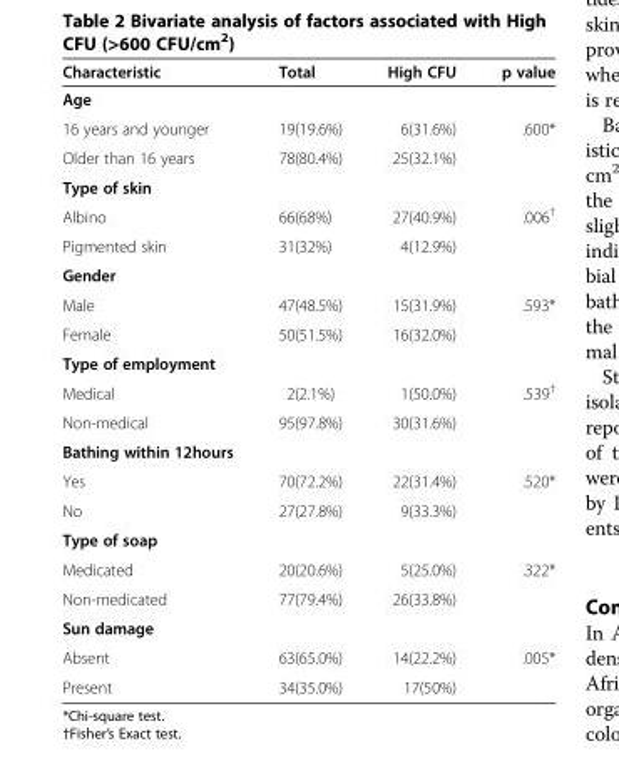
<table><thead><tr><td>Characteristic</td><td>Total</td><td>High CFU</td><td>p value</td></tr></thead><tbody><tr><td colspan="4">Age</td></tr><tr><td>16 years and younger</td><td>19(19.6%)</td><td>6(31.6%)</td><td>.600*</td></tr><tr><td>Older than 16 years</td><td>78(80.4%)</td><td>25(32.1%)</td><td></td></tr><tr><td colspan="4">Type of skin</td></tr><tr><td>Albino</td><td>66(68%)</td><td>27(40.9%)</td><td>.006<sup>†</sup></td></tr><tr><td>Pigmented skin</td><td>31(32%)</td><td>4(12.9%)</td><td></td></tr><tr><td colspan="4">Gender</td></tr><tr><td>Male</td><td>47(48.5%)</td><td>15(31.9%)</td><td>.593*</td></tr><tr><td>Female</td><td>50(51.5%)</td><td>16(32.0%)</td><td></td></tr><tr><td colspan="4">Type of employment</td></tr><tr><td>Medical</td><td>2(2.1%)</td><td>1(50.0%)</td><td>.539<sup>†</sup></td></tr><tr><td>Non-medical</td><td>95(97.8%)</td><td>30(31.6%)</td><td></td></tr><tr><td colspan="4">Bathing within 12hours</td></tr><tr><td>Yes</td><td>70(72.2%)</td><td>22(31.4%)</td><td>.520*</td></tr><tr><td>No</td><td>27(27.8%)</td><td>9(33.3%)</td><td></td></tr><tr><td colspan="4">Type of soap</td></tr><tr><td>Medicated</td><td>20(20.6%)</td><td>5(25.0%)</td><td>.322*</td></tr><tr><td>Non-medicated</td><td>77(79.4%)</td><td>26(33.8%)</td><td></td></tr><tr><td colspan="4">Sun damage</td></tr><tr><td>Absent</td><td>63(65.0%)</td><td>14(22.2%)</td><td>.005*</td></tr><tr><td>Present</td><td>34(35.0%)</td><td>17(50%)</td><td></td></tr></tbody></table>